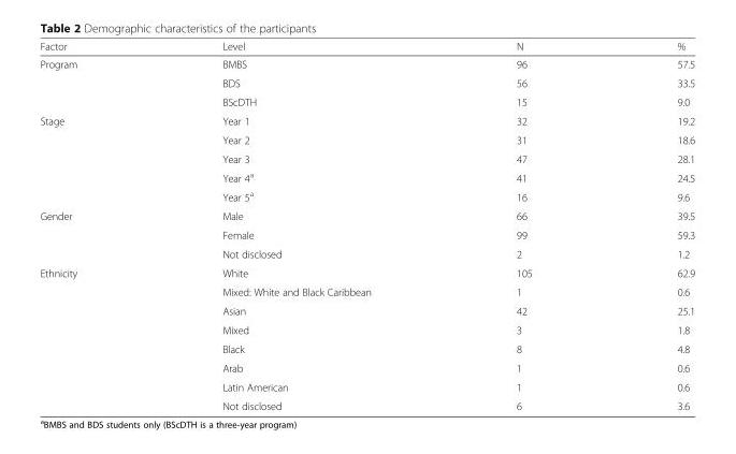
<table><thead><tr><td>Factor</td><td>Level</td><td>N</td><td>%</td></tr></thead><tbody><tr><td rowspan="3">Program</td><td>BMBS</td><td>96</td><td>57.5</td></tr><tr><td>BDS</td><td>56</td><td>33.5</td></tr><tr><td>BScDTH</td><td>15</td><td>9.0</td></tr><tr><td rowspan="5">Stage</td><td>Year 1</td><td>32</td><td>19.2</td></tr><tr><td>Year 2</td><td>31</td><td>18.6</td></tr><tr><td>Year 3</td><td>47</td><td>28.1</td></tr><tr><td>Year 4<sup>a</sup></td><td>41</td><td>24.5</td></tr><tr><td>Year 5<sup>a</sup></td><td>16</td><td>9.6</td></tr><tr><td rowspan="3">Gender</td><td>Male</td><td>66</td><td>39.5</td></tr><tr><td>Female</td><td>99</td><td>59.3</td></tr><tr><td>Not disclosed</td><td>2</td><td>1.2</td></tr><tr><td rowspan="8">Ethnicity</td><td>White</td><td>105</td><td>62.9</td></tr><tr><td>Mixed: White and Black Caribbean</td><td>1</td><td>0.6</td></tr><tr><td>Asian</td><td>42</td><td>25.1</td></tr><tr><td>Mixed</td><td>3</td><td>1.8</td></tr><tr><td>Black</td><td>8</td><td>4.8</td></tr><tr><td>Arab</td><td>1</td><td>0.6</td></tr><tr><td>Latin American</td><td>1</td><td>0.6</td></tr><tr><td>Not disclosed</td><td>6</td><td>3.6</td></tr></tbody></table>